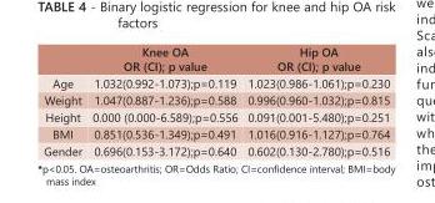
<table><thead><tr><td></td><td>Knee OA OR (CI); p value</td><td>Hip OA OR (CI); p value</td></tr></thead><tbody><tr><td>Age</td><td>1.032(0.992-1.073);p=0.119</td><td>1.023(0.986-1.061);p=0.230</td></tr><tr><td>Weight</td><td>1.047(0.887-1.236);p=0.588</td><td>0.996(0.960-1.032);p=0.815</td></tr><tr><td>Height</td><td>0.000 (0.000-6.589);p=0.556</td><td>0.091(0.001-5.480);p=0.251</td></tr><tr><td>BMI</td><td>0.851(0.536-1.349);p=0.491</td><td>1.016(0.916-1.127);p=0.764</td></tr><tr><td>Gender</td><td>0.696(0.153-3.172);p=0.640</td><td>0.602(0.130-2.780);p=0.516</td></tr></tbody></table>